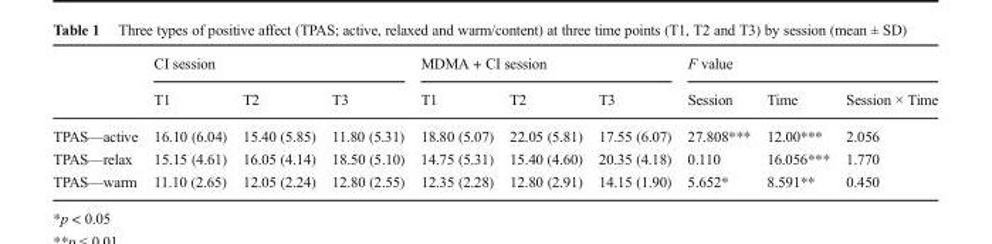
<table><thead><tr><td rowspan="2"></td><td colspan="3">CI session</td><td colspan="3">MDMA + CI session</td><td colspan="3">F value</td></tr><tr><td>T1</td><td>T2</td><td>T3</td><td>T1</td><td>T2</td><td>T3</td><td>Session</td><td>Time</td><td>Session × Time</td></tr></thead><tbody><tr><td>TPAS—active</td><td>16.10 (6.04)</td><td>15.40 (5.85)</td><td>11.80 (5.31)</td><td>18.80 (5.07)</td><td>22.05 (5.81)</td><td>17.55 (6.07)</td><td>27.808***</td><td>12.00***</td><td>2.056</td></tr><tr><td>TPAS—relax</td><td>15.15 (4.61)</td><td>16.05 (4.14)</td><td>18.50 (5.10)</td><td>14.75 (5.31)</td><td>15.40 (4.60)</td><td>20.35 (4.18)</td><td>0.110</td><td>16.056***</td><td>1.770</td></tr><tr><td>TPAS—warm</td><td>11.10 (2.65)</td><td>12.05 (2.24)</td><td>12.80 (2.55)</td><td>12.35 (2.28)</td><td>12.80 (2.91)</td><td>14.15 (1.90)</td><td>5.652*</td><td>8.591**</td><td>0.450</td></tr></tbody></table>